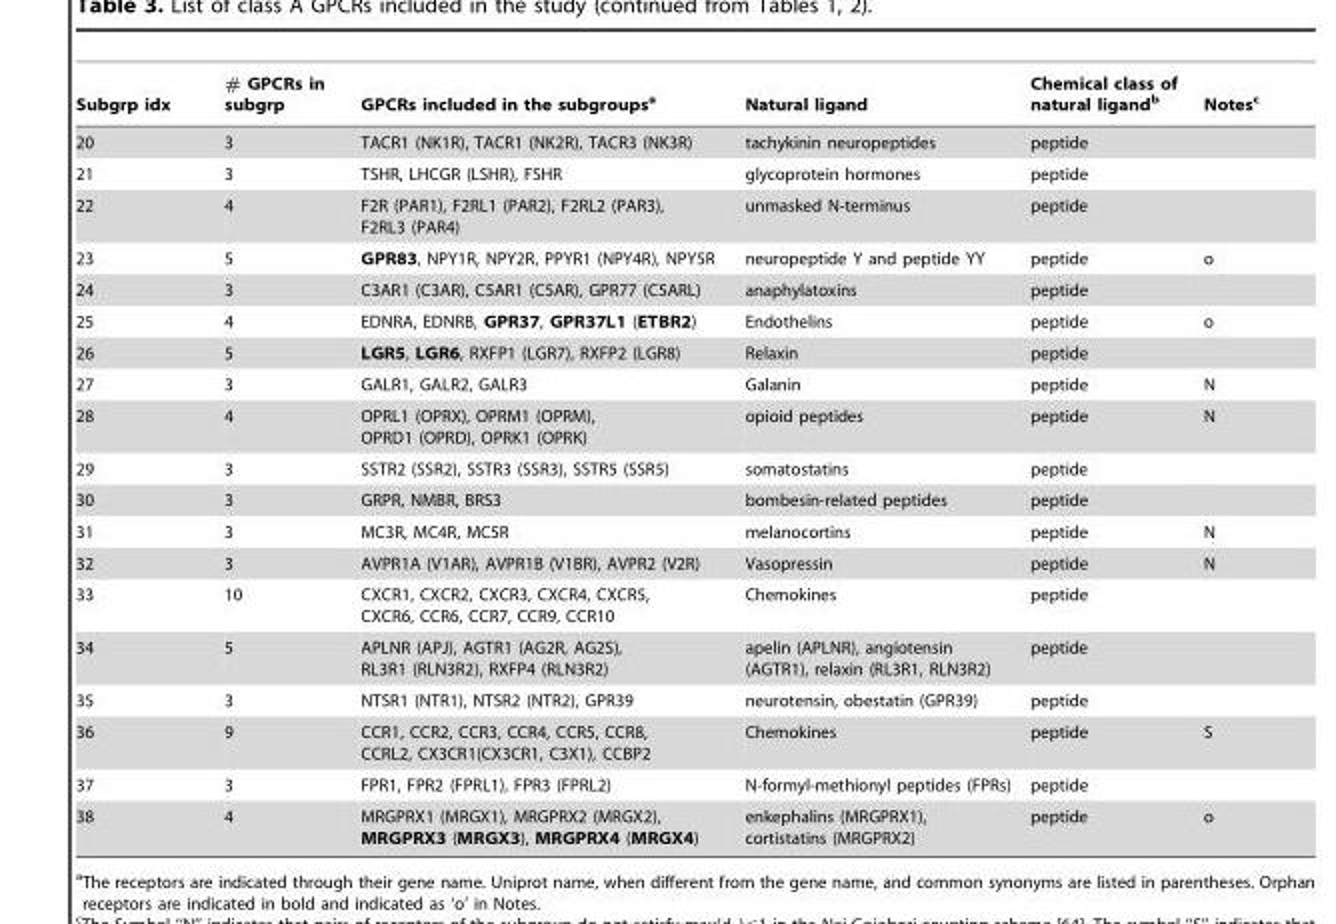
<table><thead><tr><td>Subgrp idx</td><td># GPCRs in subgrp</td><td>GPCRs included in the subgroups<sup>a</sup></td><td>Natural ligand</td><td>Chemical class of natural ligand<sup>b</sup></td><td>Notes<sup>c</sup></td></tr></thead><tbody><tr><td>20</td><td>3</td><td>TACR1 (NK1R), TACR1 (NK2R), TACR3 (NK3R)</td><td>tachykinin neuropeptides</td><td>peptide</td><td></td></tr><tr><td>21</td><td>3</td><td>TSHR, LHCGR (LSHR), FSHR</td><td>glycoprotein hormones</td><td>peptide</td><td></td></tr><tr><td>22</td><td>4</td><td>F2R (PAR1), F2RL1 (PAR2), F2RL2 (PAR3), F2RL3 (PAR4)</td><td>unmasked N-terminus</td><td>peptide</td><td></td></tr><tr><td>23</td><td>5</td><td>GPR83, NPY1R, NPY2R, PPYR1 (NPY4R), NPY5R</td><td>neuropeptide Y and peptide YY</td><td>peptide</td><td>o</td></tr><tr><td>24</td><td>3</td><td>C3AR1 (C3AR), C5AR1 (C5AR), GPR77 (C5ARL)</td><td>anaphylatoxins</td><td>peptide</td><td></td></tr><tr><td>25</td><td>4</td><td>EDNRA, EDNRB, GPR37, GPR37L1 (ETBR2)</td><td>Endothelins</td><td>peptide</td><td>o</td></tr><tr><td>26</td><td>5</td><td>LGR5, LGR6, RXFP1 (LGR7), RXFP2 (LGR8)</td><td>Relaxin</td><td>peptide</td><td></td></tr><tr><td>27</td><td>3</td><td>GALR1, GALR2, GALR3</td><td>Galanin</td><td>peptide</td><td>N</td></tr><tr><td>28</td><td>4</td><td>OPRL1 (OPRX), OPRM1 (OPRM), OPRD1 (OPRD), OPRK1 (OPRK)</td><td>opioid peptides</td><td>peptide</td><td>N</td></tr><tr><td>29</td><td>3</td><td>SSTR2 (SSR2), SSTR3 (SSR3), SSTR5 (SSR5)</td><td>somatostatins</td><td>peptide</td><td></td></tr><tr><td>30</td><td>3</td><td>GRPR, NMBR, BRS3</td><td>bombesin-related peptides</td><td>peptide</td><td></td></tr><tr><td>31</td><td>3</td><td>MC3R, MC4R, MC5R</td><td>melanocortins</td><td>peptide</td><td>N</td></tr><tr><td>32</td><td>3</td><td>AVPR1A (V1AR), AVPR1B (V1BR), AVPR2 (V2R)</td><td>Vasopressin</td><td>peptide</td><td>N</td></tr><tr><td>33</td><td>10</td><td>CXCR1, CXCR2, CXCR3, CXCR4, CXCR5, CXCR6, CCR6, CCR7, CCR9, CCR10</td><td>Chemokines</td><td>peptide</td><td></td></tr><tr><td>34</td><td>5</td><td>APLNR (APJ), AGTR1 (AG2R, AG2S), RL3R1 (RLN3R2), RXFP4 (RLN3R2)</td><td>apelin (APLNR), angiotensin (AGTR1), relaxin (RL3R1, RLN3R2)</td><td>peptide</td><td></td></tr><tr><td>35</td><td>3</td><td>NTSR1 (NTR1), NTSR2 (NTR2), GPR39</td><td>neurotensin, obestatin (GPR39)</td><td>peptide</td><td></td></tr><tr><td>36</td><td>9</td><td>CCR1, CCR2, CCR3, CCR4, CCR5, CCR8, CCRL2, CX3CR1(CX3CR1, C3X1), CCBP2</td><td>Chemokines</td><td>peptide</td><td>S</td></tr><tr><td>37</td><td>3</td><td>FPR1, FPR2 (FPRL1), FPR3 (FPRL2)</td><td>N-formyl-methionyl peptides (FPRs)</td><td>peptide</td><td></td></tr><tr><td>38</td><td>4</td><td>MRGPRX1 (MRGX1), MRGPRX2 (MRGX2), MRGPRX3 (MRGX3), MRGPRX4 (MRGX4)</td><td>enkephalins (MRGPRX1), cortistatins (MRGPRX2)</td><td>peptide</td><td>o</td></tr></tbody></table>